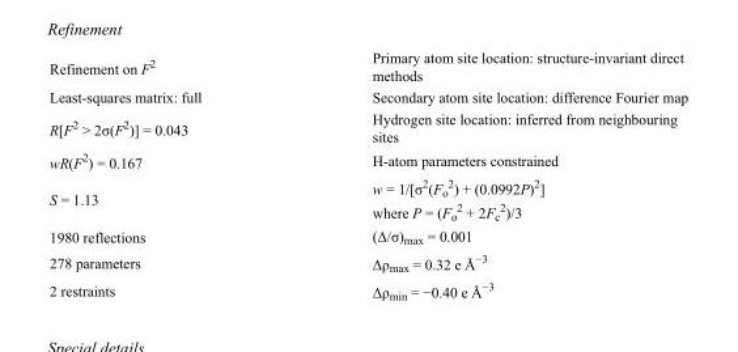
<table><tbody><tr><td>Refinement on F<sup>2</sup></td><td>Primary atom site location: structure-invariant direct methods</td></tr><tr><td>Least-squares matrix: full</td><td>Secondary atom site location: difference Fourier map</td></tr><tr><td>R[F<sup>2</sup> &gt; 2σ(F<sup>2</sup>)] = 0.043</td><td>Hydrogen site location: inferred from neighbouring sites</td></tr><tr><td>wR(F<sup>2</sup>) = 0.167</td><td>H-atom parameters constrained</td></tr><tr><td>S = 1.13</td><td>w = 1/[σ<sup>2</sup>(F<sub>o</sub> <sup>2</sup>) + (0.0992P)<sup>2</sup>] where P = (F<sub>o</sub> <sup>2</sup> + 2F<sub>c</sub> <sup>2</sup>)/3</td></tr><tr><td>1980 reflections</td><td>(Δ/σ)<sub>max</sub> = 0.001</td></tr><tr><td>278 parameters</td><td>Δρ<sub>max</sub> = 0.32 e Å<sup>−3</sup></td></tr><tr><td>2 restraints</td><td>Δρ<sub>min</sub> = −0.40 e Å<sup>−3</sup></td></tr></tbody></table>